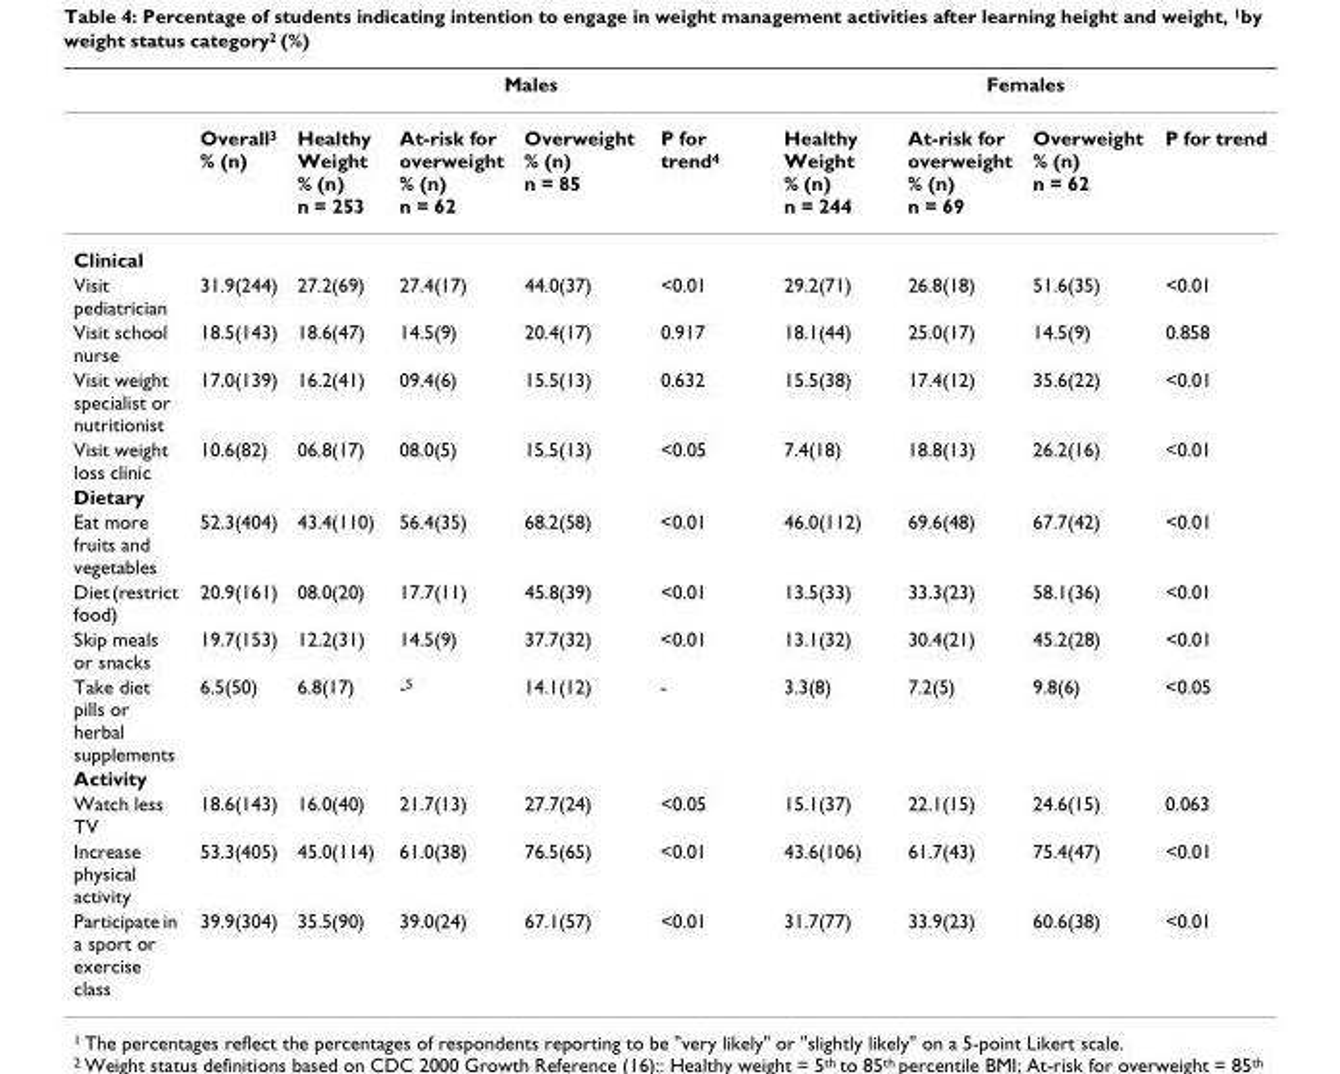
<table><thead><tr><td rowspan="2"></td><td rowspan="2">Overall<sup>3</sup> % (n)</td><td colspan="4">Males</td><td colspan="4">Females</td></tr><tr><td>Healthy Weight % (n) n = 253</td><td>At-risk for overweight % (n) n = 62</td><td>Overweight % (n) n = 85</td><td>P for trend<sup>4</sup></td><td>Healthy Weight % (n) n = 244</td><td>At-risk for overweight % (n) n = 69</td><td>Overweight % (n) n = 62</td><td>P for trend</td></tr></thead><tbody><tr><td colspan="10">Clinical</td></tr><tr><td>Visit pediatrician</td><td>31.9(244)</td><td>27.2(69)</td><td>27.4(17)</td><td>44.0(37)</td><td>&lt;0.01</td><td>29.2(71)</td><td>26.8(18)</td><td>51.6(35)</td><td>&lt;0.01</td></tr><tr><td>Visit school nurse</td><td>18.5(143)</td><td>18.6(47)</td><td>14.5(9)</td><td>20.4(17)</td><td>0.917</td><td>18.1(44)</td><td>25.0(17)</td><td>14.5(9)</td><td>0.858</td></tr><tr><td>Visit weight specialist or nutritionist</td><td>17.0(139)</td><td>16.2(41)</td><td>09.4(6)</td><td>15.5(13)</td><td>0.632</td><td>15.5(38)</td><td>17.4(12)</td><td>35.6(22)</td><td>&lt;0.01</td></tr><tr><td>Visit weight loss clinic</td><td>10.6(82)</td><td>06.8(17)</td><td>08.0(5)</td><td>15.5(13)</td><td>&lt;0.05</td><td>7.4(18)</td><td>18.8(13)</td><td>26.2(16)</td><td>&lt;0.01</td></tr><tr><td colspan="10">Dietary</td></tr><tr><td>Eat more fruits and vegetables</td><td>52.3(404)</td><td>43.4(110)</td><td>56.4(35)</td><td>68.2(58)</td><td>&lt;0.01</td><td>46.0(112)</td><td>69.6(48)</td><td>67.7(42)</td><td>&lt;0.01</td></tr><tr><td>Diet (restrict food)</td><td>20.9(161)</td><td>08.0(20)</td><td>17.7(11)</td><td>45.8(39)</td><td>&lt;0.01</td><td>13.5(33)</td><td>33.3(23)</td><td>58.1(36)</td><td>&lt;0.01</td></tr><tr><td>Skip meals or snacks</td><td>19.7(153)</td><td>12.2(31)</td><td>14.5(9)</td><td>37.7(32)</td><td>&lt;0.01</td><td>13.1(32)</td><td>30.4(21)</td><td>45.2(28)</td><td>&lt;0.01</td></tr><tr><td>Take diet pills or herbal supplements</td><td>6.5(50)</td><td>6.8(17)</td><td>-<sup>5</sup></td><td>14.1(12)</td><td>-</td><td>3.3(8)</td><td>7.2(5)</td><td>9.8(6)</td><td>&lt;0.05</td></tr><tr><td colspan="10">Activity</td></tr><tr><td>Watch less TV</td><td>18.6(143)</td><td>16.0(40)</td><td>21.7(13)</td><td>27.7(24)</td><td>&lt;0.05</td><td>15.1(37)</td><td>22.1(15)</td><td>24.6(15)</td><td>0.063</td></tr><tr><td>Increase physical activity</td><td>53.3(405)</td><td>45.0(114)</td><td>61.0(38)</td><td>76.5(65)</td><td>&lt;0.01</td><td>43.6(106)</td><td>61.7(43)</td><td>75.4(47)</td><td>&lt;0.01</td></tr><tr><td>Participate in a sport or exercise class</td><td>39.9(304)</td><td>35.5(90)</td><td>39.0(24)</td><td>67.1(57)</td><td>&lt;0.01</td><td>31.7(77)</td><td>33.9(23)</td><td>60.6(38)</td><td>&lt;0.01</td></tr></tbody></table>